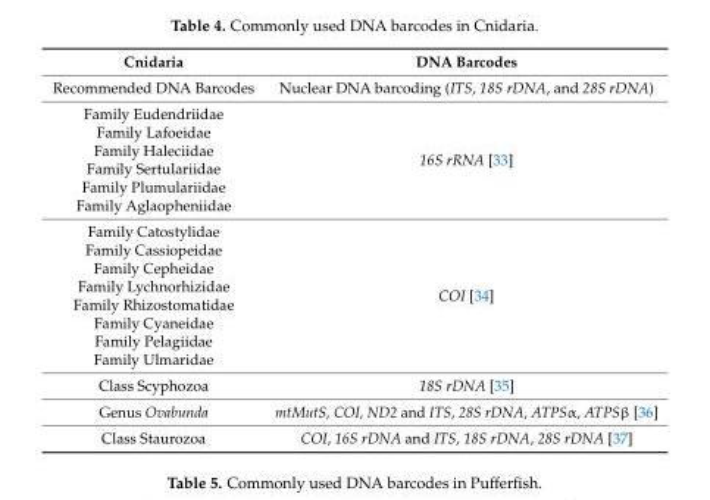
<table><thead><tr><td>Cnidaria</td><td>DNA Barcodes</td></tr></thead><tbody><tr><td>Recommended DNA Barcodes</td><td>Nuclear DNA barcoding (ITS, 18S rDNA, and 28S rDNA)</td></tr><tr><td>Family Eudendriidae</td><td rowspan="6">16S rRNA [33]</td></tr><tr><td>Family Lafoeidae</td></tr><tr><td>Family Haleciidae</td></tr><tr><td>Family Sertulariidae</td></tr><tr><td>Family Plumulariidae</td></tr><tr><td>Family Aglaopheniidae</td></tr><tr><td>Family Catostylidae</td><td rowspan="8">COI [34]</td></tr><tr><td>Family Cassiopeidae</td></tr><tr><td>Family Cepheidae</td></tr><tr><td>Family Lychnorhizidae</td></tr><tr><td>Family Rhizostomatidae</td></tr><tr><td>Family Cyaneidae</td></tr><tr><td>Family Pelagiidae</td></tr><tr><td>Family Ulmaridae</td></tr><tr><td>Class Scyphozoa</td><td>18S rDNA [35]</td></tr><tr><td>Genus Ovabunda</td><td>mtMutS, COI, ND2 and ITS, 28S rDNA, ATPSα, ATPSβ [36]</td></tr><tr><td>Class Staurozoa</td><td>COI, 16S rDNA and ITS, 18S rDNA, 28S rDNA [37]</td></tr></tbody></table>